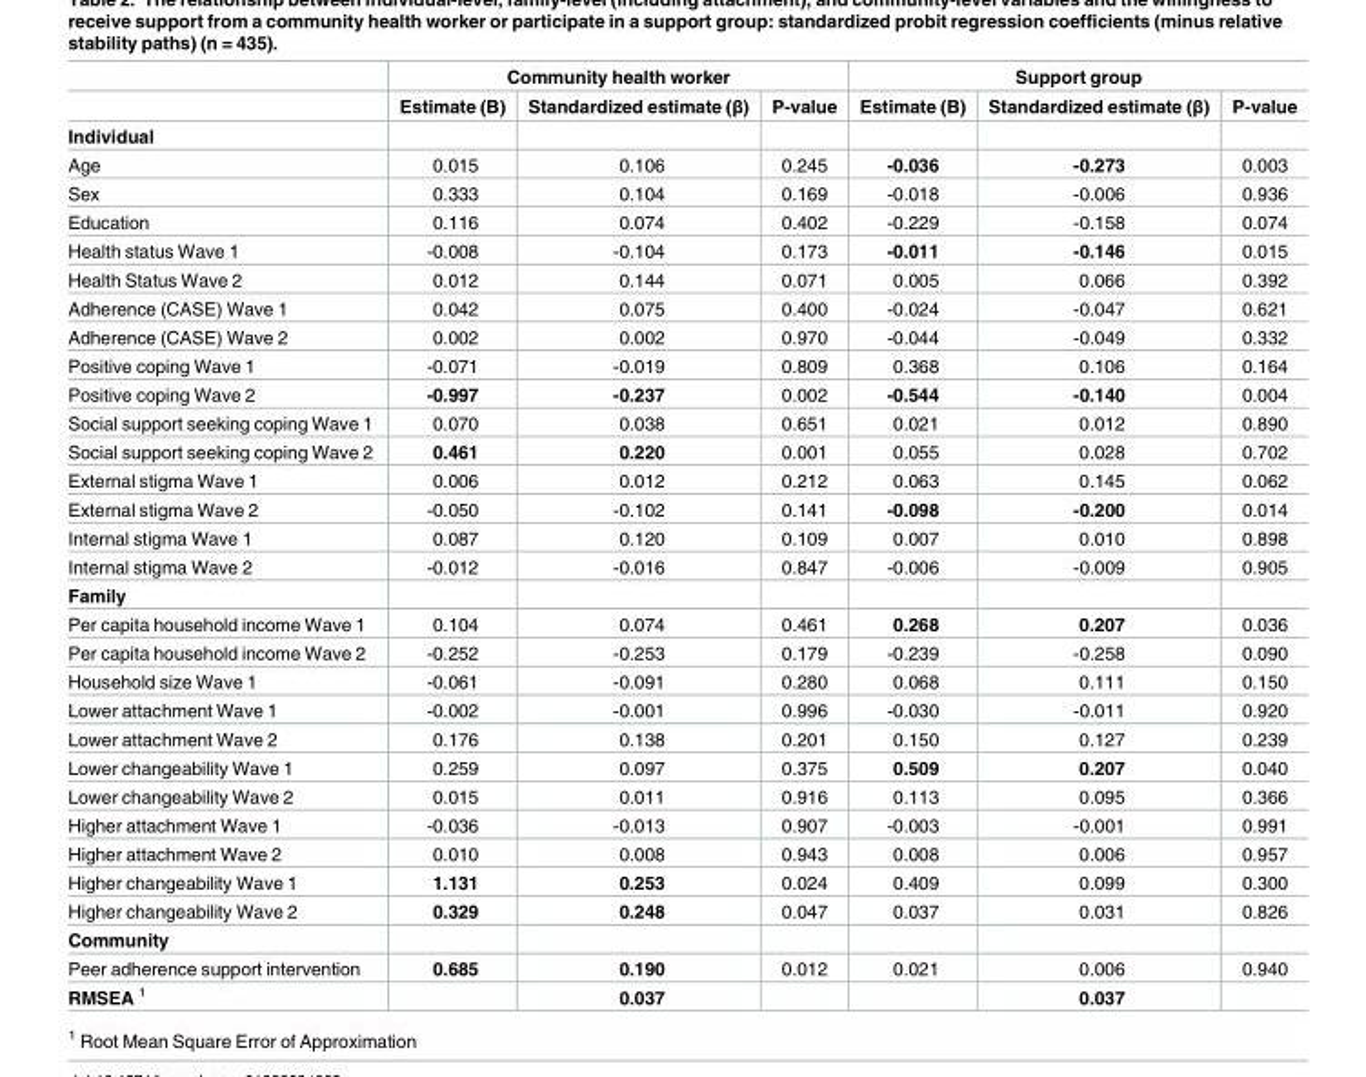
<table><thead><tr><td rowspan="2"></td><td colspan="3">Community health worker</td><td colspan="3">Support group</td></tr><tr><td>Estimate (B)</td><td>Standardized estimate (β)</td><td>P-value</td><td>Estimate (B)</td><td>Standardized estimate (β)</td><td>P-value</td></tr></thead><tbody><tr><td colspan="7">Individual</td></tr><tr><td>Age</td><td>0.015</td><td>0.106</td><td>0.245</td><td>-0.036</td><td>-0.273</td><td>0.003</td></tr><tr><td>Sex</td><td>0.333</td><td>0.104</td><td>0.169</td><td>-0.018</td><td>-0.006</td><td>0.936</td></tr><tr><td>Education</td><td>0.116</td><td>0.074</td><td>0.402</td><td>-0.229</td><td>-0.158</td><td>0.074</td></tr><tr><td>Health status Wave 1</td><td>-0.008</td><td>-0.104</td><td>0.173</td><td>-0.011</td><td>-0.146</td><td>0.015</td></tr><tr><td>Health Status Wave 2</td><td>0.012</td><td>0.144</td><td>0.071</td><td>0.005</td><td>0.066</td><td>0.392</td></tr><tr><td>Adherence (CASE) Wave 1</td><td>0.042</td><td>0.075</td><td>0.400</td><td>-0.024</td><td>-0.047</td><td>0.621</td></tr><tr><td>Adherence (CASE) Wave 2</td><td>0.002</td><td>0.002</td><td>0.970</td><td>-0.044</td><td>-0.049</td><td>0.332</td></tr><tr><td>Positive coping Wave 1</td><td>-0.071</td><td>-0.019</td><td>0.809</td><td>0.368</td><td>0.106</td><td>0.164</td></tr><tr><td>Positive coping Wave 2</td><td>-0.997</td><td>-0.237</td><td>0.002</td><td>-0.544</td><td>-0.140</td><td>0.004</td></tr><tr><td>Social support seeking coping Wave 1</td><td>0.070</td><td>0.038</td><td>0.651</td><td>0.021</td><td>0.012</td><td>0.890</td></tr><tr><td>Social support seeking coping Wave 2</td><td>0.461</td><td>0.220</td><td>0.001</td><td>0.055</td><td>0.028</td><td>0.702</td></tr><tr><td>External stigma Wave 1</td><td>0.006</td><td>0.012</td><td>0.212</td><td>0.063</td><td>0.145</td><td>0.062</td></tr><tr><td>External stigma Wave 2</td><td>-0.050</td><td>-0.102</td><td>0.141</td><td>-0.098</td><td>-0.200</td><td>0.014</td></tr><tr><td>Internal stigma Wave 1</td><td>0.087</td><td>0.120</td><td>0.109</td><td>0.007</td><td>0.010</td><td>0.898</td></tr><tr><td>Internal stigma Wave 2</td><td>-0.012</td><td>-0.016</td><td>0.847</td><td>-0.006</td><td>-0.009</td><td>0.905</td></tr><tr><td colspan="7">Family</td></tr><tr><td>Per capita household income Wave 1</td><td>0.104</td><td>0.074</td><td>0.461</td><td>0.268</td><td>0.207</td><td>0.036</td></tr><tr><td>Per capita household income Wave 2</td><td>-0.252</td><td>-0.253</td><td>0.179</td><td>-0.239</td><td>-0.258</td><td>0.090</td></tr><tr><td>Household size Wave 1</td><td>-0.061</td><td>-0.091</td><td>0.280</td><td>0.068</td><td>0.111</td><td>0.150</td></tr><tr><td>Lower attachment Wave 1</td><td>-0.002</td><td>-0.001</td><td>0.996</td><td>-0.030</td><td>-0.011</td><td>0.920</td></tr><tr><td>Lower attachment Wave 2</td><td>0.176</td><td>0.138</td><td>0.201</td><td>0.150</td><td>0.127</td><td>0.239</td></tr><tr><td>Lower changeability Wave 1</td><td>0.259</td><td>0.097</td><td>0.375</td><td>0.509</td><td>0.207</td><td>0.040</td></tr><tr><td>Lower changeability Wave 2</td><td>0.015</td><td>0.011</td><td>0.916</td><td>0.113</td><td>0.095</td><td>0.366</td></tr><tr><td>Higher attachment Wave 1</td><td>-0.036</td><td>-0.013</td><td>0.907</td><td>-0.003</td><td>-0.001</td><td>0.991</td></tr><tr><td>Higher attachment Wave 2</td><td>0.010</td><td>0.008</td><td>0.943</td><td>0.008</td><td>0.006</td><td>0.957</td></tr><tr><td>Higher changeability Wave 1</td><td>1.131</td><td>0.253</td><td>0.024</td><td>0.409</td><td>0.099</td><td>0.300</td></tr><tr><td>Higher changeability Wave 2</td><td>0.329</td><td>0.248</td><td>0.047</td><td>0.037</td><td>0.031</td><td>0.826</td></tr><tr><td colspan="7">Community</td></tr><tr><td>Peer adherence support intervention</td><td>0.685</td><td>0.190</td><td>0.012</td><td>0.021</td><td>0.006</td><td>0.940</td></tr><tr><td>RMSEA <sup>1</sup></td><td></td><td>0.037</td><td></td><td></td><td>0.037</td><td></td></tr></tbody></table>